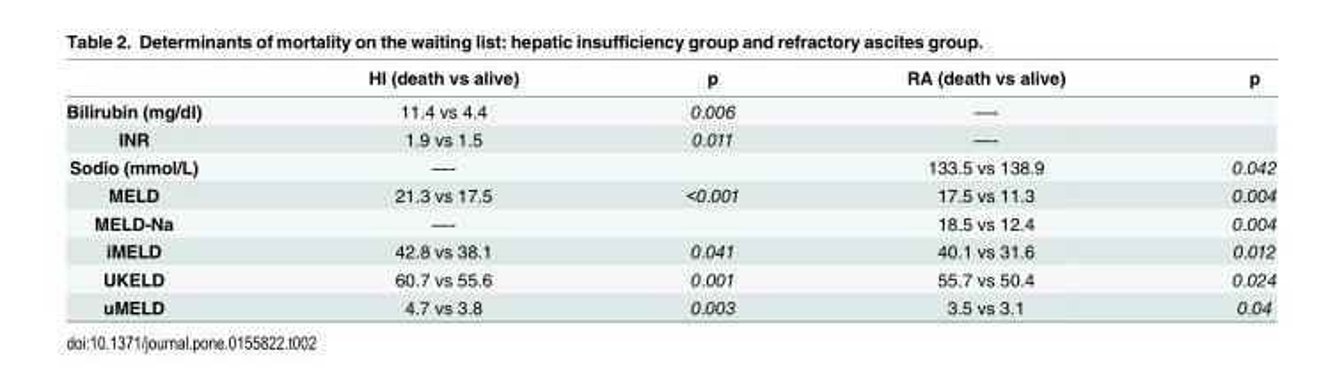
<table><thead><tr><td></td><td>HI (death vs alive)</td><td>p</td><td>RA (death vs alive)</td><td>p</td></tr></thead><tbody><tr><td>Bilirubin (mg/dl)</td><td>11.4 vs 4.4</td><td>0.006</td><td>—-</td><td></td></tr><tr><td>INR</td><td>1.9 vs 1.5</td><td>0.011</td><td>—-</td><td></td></tr><tr><td>Sodio (mmol/L)</td><td>—-</td><td></td><td>133.5 vs 138.9</td><td>0.042</td></tr><tr><td>MELD</td><td>21.3 vs 17.5</td><td>&lt;0.001</td><td>17.5 vs 11.3</td><td>0.004</td></tr><tr><td>MELD-Na</td><td>—-</td><td></td><td>18.5 vs 12.4</td><td>0.004</td></tr><tr><td>iMELD</td><td>42.8 vs 38.1</td><td>0.041</td><td>40.1 vs 31.6</td><td>0.012</td></tr><tr><td>UKELD</td><td>60.7 vs 55.6</td><td>0.001</td><td>55.7 vs 50.4</td><td>0.024</td></tr><tr><td>uMELD</td><td>4.7 vs 3.8</td><td>0.003</td><td>3.5 vs 3.1</td><td>0.04</td></tr></tbody></table>